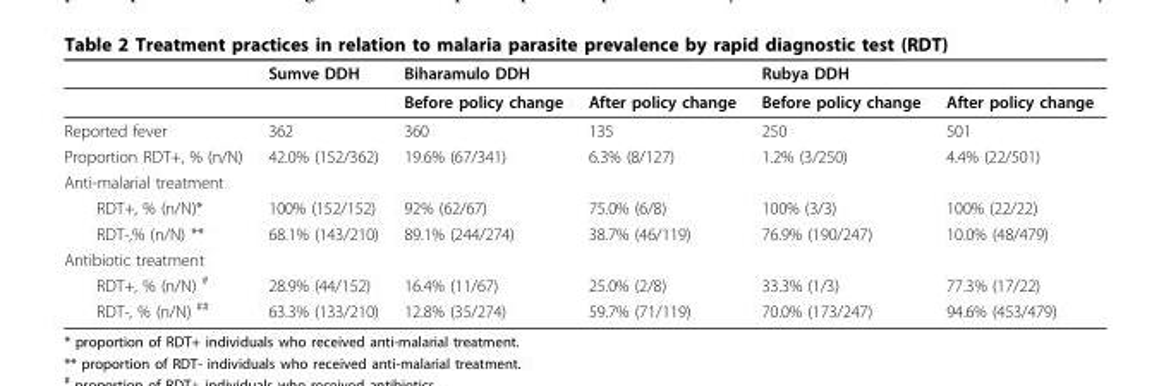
<table><thead><tr><td></td><td>Sumve DDH</td><td>Biharamulo DDH</td><td></td><td>Rubya DDH</td><td></td></tr></thead><tbody><tr><td></td><td></td><td>Before policy change</td><td>After policy change</td><td>Before policy change</td><td>After policy change</td></tr><tr><td>Reported fever</td><td>362</td><td>360</td><td>135</td><td>250</td><td>501</td></tr><tr><td>Proportion RDT+, % (n/N)</td><td>42.0% (152/362)</td><td>19.6% (67/341)</td><td>6.3% (8/127)</td><td>1.2% (3/250)</td><td>4.4% (22/501)</td></tr><tr><td colspan="6">Anti-malarial treatment</td></tr><tr><td>RDT+, % (n/N)*</td><td>100% (152/152)</td><td>92% (62/67)</td><td>75.0% (6/8)</td><td>100% (3/3)</td><td>100% (22/22)</td></tr><tr><td>RDT-,% (n/N) **</td><td>68.1% (143/210)</td><td>89.1% (244/274)</td><td>38.7% (46/119)</td><td>76.9% (190/247)</td><td>10.0% (48/479)</td></tr><tr><td colspan="6">Antibiotic treatment</td></tr><tr><td>RDT+, % (n/N) <sup>#</sup></td><td>28.9% (44/152)</td><td>16.4% (11/67)</td><td>25.0% (2/8)</td><td>33.3% (1/3)</td><td>77.3% (17/22)</td></tr><tr><td>RDT-, % (n/N) <sup>##</sup></td><td>63.3% (133/210)</td><td>12.8% (35/274)</td><td>59.7% (71/119)</td><td>70.0% (173/247)</td><td>94.6% (453/479)</td></tr></tbody></table>